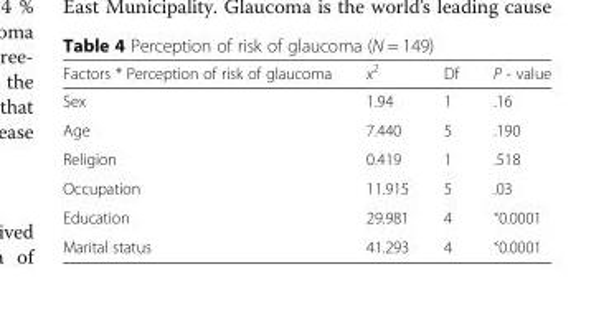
<table><thead><tr><td>Factors * Perception of risk of glaucoma</td><td>x<sup>2</sup></td><td>Df</td><td>P - value</td></tr></thead><tbody><tr><td>Sex</td><td>1.94</td><td>1</td><td>.16</td></tr><tr><td>Age</td><td>7.440</td><td>5</td><td>.190</td></tr><tr><td>Religion</td><td>0.419</td><td>1</td><td>.518</td></tr><tr><td>Occupation</td><td>11.915</td><td>5</td><td>.03</td></tr><tr><td>Education</td><td>29.981</td><td>4</td><td>˂0.0001</td></tr><tr><td>Marital status</td><td>41.293</td><td>4</td><td>˂0.0001</td></tr></tbody></table>